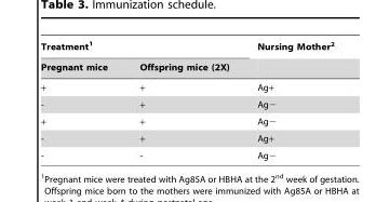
<table><thead><tr><td colspan="2">Treatment<sup>1</sup></td><td rowspan="2">Nursing Mother<sup>2</sup></td></tr><tr><td>Pregnant mice</td><td>Offspring mice (2X)</td></tr></thead><tbody><tr><td>+</td><td>+</td><td>Ag+</td></tr><tr><td>-</td><td>+</td><td>Ag−</td></tr><tr><td>+</td><td>+</td><td>Ag−</td></tr><tr><td>-</td><td>+</td><td>Ag+</td></tr><tr><td>-</td><td>-</td><td>Ag−</td></tr></tbody></table>